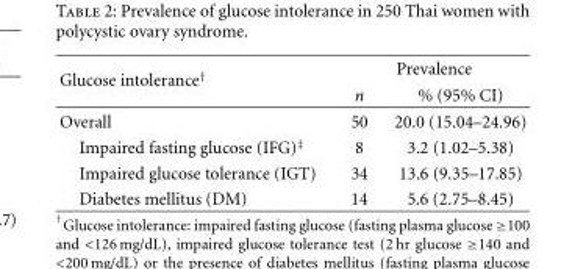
<table><thead><tr><td rowspan="2">Glucose intolerance<sup>†</sup></td><td colspan="2">Prevalence</td></tr><tr><td>n</td><td>% (95% CI)</td></tr></thead><tbody><tr><td>Overall</td><td>50</td><td>20.0 (15.04–24.96)</td></tr><tr><td>Impaired fasting glucose (IFG)<sup>‡</sup></td><td>8</td><td>3.2 (1.02–5.38)</td></tr><tr><td>Impaired glucose tolerance (IGT)</td><td>34</td><td>13.6 (9.35–17.85)</td></tr><tr><td>Diabetes mellitus (DM)</td><td>14</td><td>5.6 (2.75–8.45)</td></tr></tbody></table>